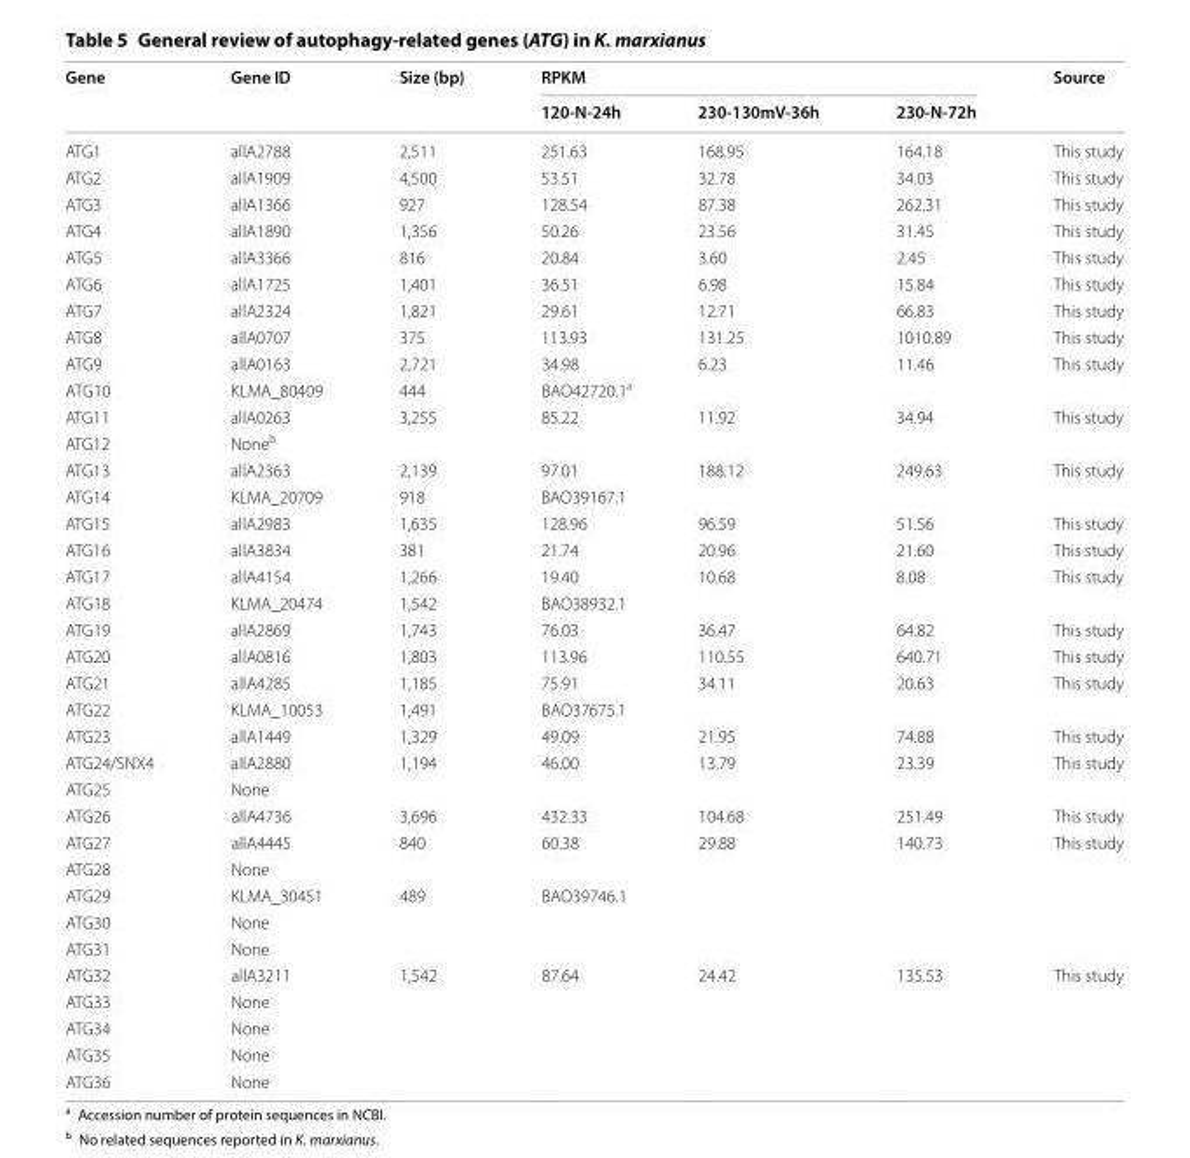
<table><thead><tr><td rowspan="2">Gene</td><td rowspan="2">Gene ID</td><td rowspan="2">Size (bp)</td><td colspan="3">RPKM</td><td rowspan="2">Source</td></tr><tr><td>120‑N‑24h</td><td>230‑130mV‑36h</td><td>230‑N‑72h</td></tr></thead><tbody><tr><td>ATG1</td><td>allA2788</td><td>2,511</td><td>251.63</td><td>168.95</td><td>164.18</td><td>This study</td></tr><tr><td>ATG2</td><td>allA1909</td><td>4,500</td><td>53.51</td><td>32.78</td><td>34.03</td><td>This study</td></tr><tr><td>ATG3</td><td>allA1366</td><td>927</td><td>128.54</td><td>87.38</td><td>262.31</td><td>This study</td></tr><tr><td>ATG4</td><td>allA1890</td><td>1,356</td><td>50.26</td><td>23.56</td><td>31.45</td><td>This study</td></tr><tr><td>ATG5</td><td>allA3366</td><td>816</td><td>20.84</td><td>3.60</td><td>2.45</td><td>This study</td></tr><tr><td>ATG6</td><td>allA1725</td><td>1,401</td><td>36.51</td><td>6.98</td><td>15.84</td><td>This study</td></tr><tr><td>ATG7</td><td>allA2324</td><td>1,821</td><td>29.61</td><td>12.71</td><td>66.83</td><td>This study</td></tr><tr><td>ATG8</td><td>allA0707</td><td>375</td><td>113.93</td><td>131.25</td><td>1010.89</td><td>This study</td></tr><tr><td>ATG9</td><td>allA0163</td><td>2,721</td><td>34.98</td><td>6.23</td><td>11.46</td><td>This study</td></tr><tr><td>ATG10</td><td>KLMA_80409</td><td>444</td><td colspan="3">BAO42720.1<sup>a</sup></td><td></td></tr><tr><td>ATG11</td><td>allA0263</td><td>3,255</td><td>85.22</td><td>11.92</td><td>34.94</td><td>This study</td></tr><tr><td>ATG12</td><td colspan="5">None<sup>b</sup></td><td></td></tr><tr><td>ATG13</td><td>allA2363</td><td>2,139</td><td>97.01</td><td>188.12</td><td>249.63</td><td>This study</td></tr><tr><td>ATG14</td><td>KLMA_20709</td><td>918</td><td colspan="3">BAO39167.1</td><td></td></tr><tr><td>ATG15</td><td>allA2983</td><td>1,635</td><td>128.96</td><td>96.59</td><td>51.56</td><td>This study</td></tr><tr><td>ATG16</td><td>allA3834</td><td>381</td><td>21.74</td><td>20.96</td><td>21.60</td><td>This study</td></tr><tr><td>ATG17</td><td>allA4154</td><td>1,266</td><td>19.40</td><td>10.68</td><td>8.08</td><td>This study</td></tr><tr><td>ATG18</td><td>KLMA_20474</td><td>1,542</td><td colspan="3">BAO38932.1</td><td></td></tr><tr><td>ATG19</td><td>allA2869</td><td>1,743</td><td>76.03</td><td>36.47</td><td>64.82</td><td>This study</td></tr><tr><td>ATG20</td><td>allA0816</td><td>1,803</td><td>113.96</td><td>110.55</td><td>640.71</td><td>This study</td></tr><tr><td>ATG21</td><td>allA4285</td><td>1,185</td><td>75.91</td><td>34.11</td><td>20.63</td><td>This study</td></tr><tr><td>ATG22</td><td>KLMA_10053</td><td>1,491</td><td colspan="3">BAO37675.1</td><td></td></tr><tr><td>ATG23</td><td>allA1449</td><td>1,329</td><td>49.09</td><td>21.95</td><td>74.88</td><td>This study</td></tr><tr><td>ATG24/SNX4</td><td>allA2880</td><td>1,194</td><td>46.00</td><td>13.79</td><td>23.39</td><td>This study</td></tr><tr><td>ATG25</td><td colspan="5">None</td><td></td></tr><tr><td>ATG26</td><td>allA4736</td><td>3,696</td><td>432.33</td><td>104.68</td><td>251.49</td><td>This study</td></tr><tr><td>ATG27</td><td>allA4445</td><td>840</td><td>60.38</td><td>29.88</td><td>140.73</td><td>This study</td></tr><tr><td>ATG28</td><td colspan="5">None</td><td></td></tr><tr><td>ATG29</td><td>KLMA_30451</td><td>489</td><td colspan="3">BAO39746.1</td><td></td></tr><tr><td>ATG30</td><td colspan="5">None</td><td></td></tr><tr><td>ATG31</td><td colspan="5">None</td><td></td></tr><tr><td>ATG32</td><td>allA3211</td><td>1,542</td><td>87.64</td><td>24.42</td><td>135.53</td><td>This study</td></tr><tr><td>ATG33</td><td colspan="5">None</td><td></td></tr><tr><td>ATG34</td><td colspan="5">None</td><td></td></tr><tr><td>ATG35</td><td colspan="5">None</td><td></td></tr><tr><td>ATG36</td><td colspan="5">None</td><td></td></tr></tbody></table>